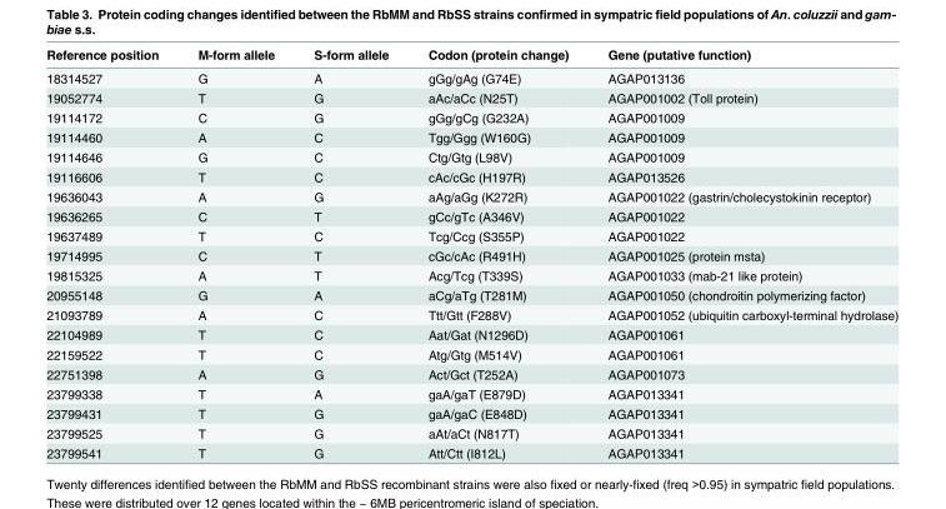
<table><thead><tr><td>Reference position</td><td>M-form allele</td><td>S-form allele</td><td>Codon (protein change)</td><td>Gene (putative function)</td></tr></thead><tbody><tr><td>18314527</td><td>G</td><td>A</td><td>gGg/gAg (G74E)</td><td>AGAP013136</td></tr><tr><td>19052774</td><td>T</td><td>G</td><td>aAc/aCc (N25T)</td><td>AGAP001002 (Toll protein)</td></tr><tr><td>19114172</td><td>C</td><td>G</td><td>gGg/gCg (G232A)</td><td>AGAP001009</td></tr><tr><td>19114460</td><td>A</td><td>C</td><td>Tgg/Ggg (W160G)</td><td>AGAP001009</td></tr><tr><td>19114646</td><td>G</td><td>C</td><td>Ctg/Gtg (L98V)</td><td>AGAP001009</td></tr><tr><td>19116606</td><td>T</td><td>C</td><td>cAc/cGc (H197R)</td><td>AGAP013526</td></tr><tr><td>19636043</td><td>A</td><td>G</td><td>aAg/aGg (K272R)</td><td>AGAP001022 (gastrin/cholecystokinin receptor)</td></tr><tr><td>19636265</td><td>C</td><td>T</td><td>gCc/gTc (A346V)</td><td>AGAP001022</td></tr><tr><td>19637489</td><td>T</td><td>C</td><td>Tcg/Ccg (S355P)</td><td>AGAP001022</td></tr><tr><td>19714995</td><td>C</td><td>T</td><td>cGc/cAc (R491H)</td><td>AGAP001025 (protein msta)</td></tr><tr><td>19815325</td><td>A</td><td>T</td><td>Acg/Tcg (T339S)</td><td>AGAP001033 (mab-21 like protein)</td></tr><tr><td>20955148</td><td>G</td><td>A</td><td>aCg/aTg (T281M)</td><td>AGAP001050 (chondroitin polymerizing factor)</td></tr><tr><td>21093789</td><td>A</td><td>C</td><td>Ttt/Gtt (F288V)</td><td>AGAP001052 (ubiquitin carboxyl-terminal hydrolase)</td></tr><tr><td>22104989</td><td>T</td><td>C</td><td>Aat/Gat (N1296D)</td><td>AGAP001061</td></tr><tr><td>22159522</td><td>T</td><td>C</td><td>Atg/Gtg (M514V)</td><td>AGAP001061</td></tr><tr><td>22751398</td><td>A</td><td>G</td><td>Act/Gct (T252A)</td><td>AGAP001073</td></tr><tr><td>23799338</td><td>T</td><td>A</td><td>gaA/gaT (E879D)</td><td>AGAP013341</td></tr><tr><td>23799431</td><td>T</td><td>G</td><td>gaA/gaC (E848D)</td><td>AGAP013341</td></tr><tr><td>23799525</td><td>T</td><td>G</td><td>aAt/aCt (N817T)</td><td>AGAP013341</td></tr><tr><td>23799541</td><td>T</td><td>G</td><td>Att/Ctt (I812L)</td><td>AGAP013341</td></tr></tbody></table>